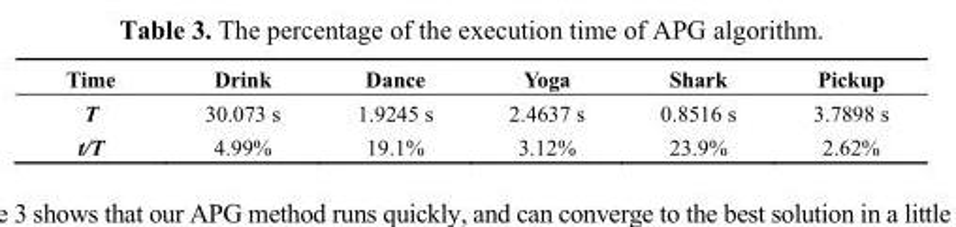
<table><thead><tr><td>Time</td><td>Drink</td><td>Dance</td><td>Yoga</td><td>Shark</td><td>Pickup</td></tr></thead><tbody><tr><td>T</td><td>30.073 s</td><td>1.9245 s</td><td>2.4637 s</td><td>0.8516 s</td><td>3.7898 s</td></tr><tr><td>t/T</td><td>4.99%</td><td>19.1%</td><td>3.12%</td><td>23.9%</td><td>2.62%</td></tr></tbody></table>